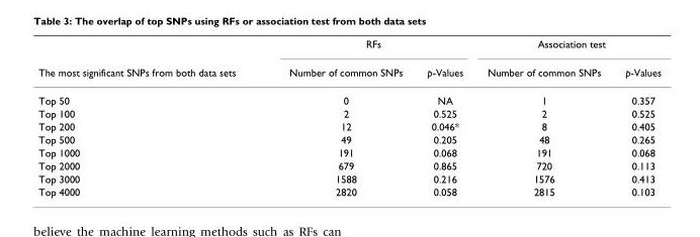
<table><thead><tr><td rowspan="2">The most significant SNPs from both data sets</td><td colspan="2">RFs</td><td colspan="2">Association test</td></tr><tr><td>Number of common SNPs</td><td>p-Values</td><td>Number of common SNPs</td><td>p-Values</td></tr></thead><tbody><tr><td>Top 50</td><td>0</td><td>NA</td><td>1</td><td>0.357</td></tr><tr><td>Top 100</td><td>2</td><td>0.525</td><td>2</td><td>0.525</td></tr><tr><td>Top 200</td><td>12</td><td>0.046*</td><td>8</td><td>0.405</td></tr><tr><td>Top 500</td><td>49</td><td>0.205</td><td>48</td><td>0.265</td></tr><tr><td>Top 1000</td><td>191</td><td>0.068</td><td>191</td><td>0.068</td></tr><tr><td>Top 2000</td><td>679</td><td>0.865</td><td>720</td><td>0.113</td></tr><tr><td>Top 3000</td><td>1588</td><td>0.216</td><td>1576</td><td>0.413</td></tr><tr><td>Top 4000</td><td>2820</td><td>0.058</td><td>2815</td><td>0.103</td></tr></tbody></table>